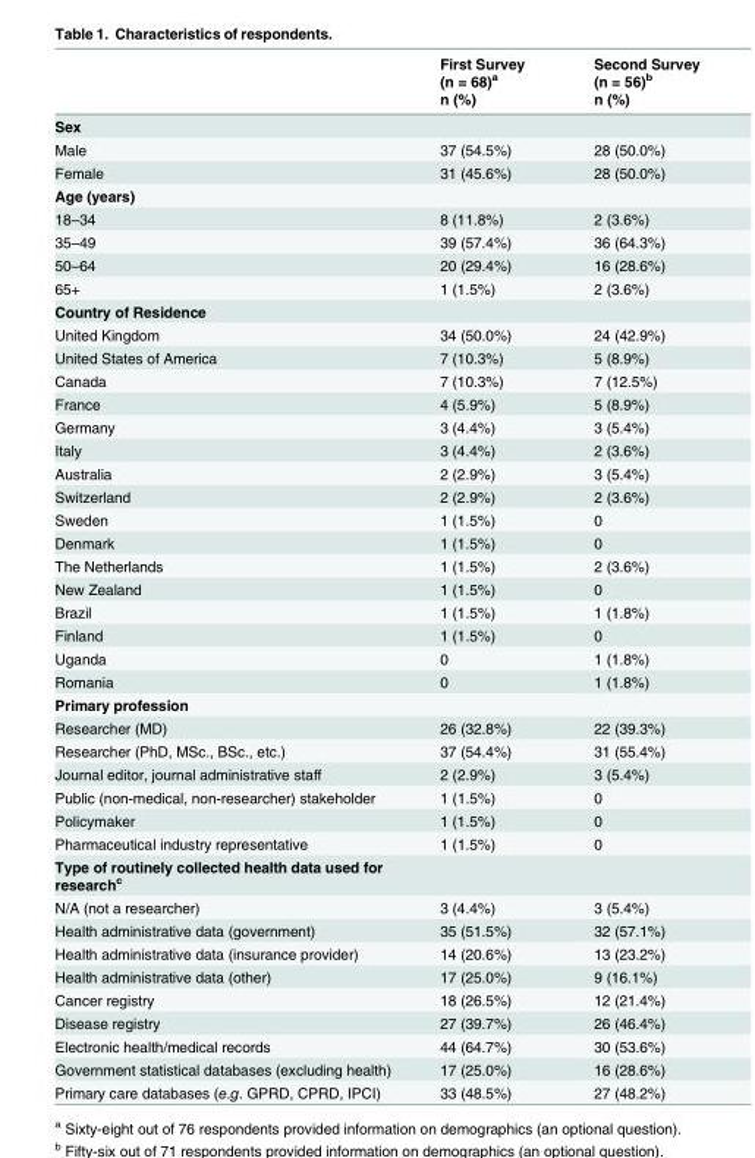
<table><thead><tr><td rowspan="2"></td><td rowspan="2">First Survey (n = 68)<sup>a</sup> n (%)</td><td rowspan="2">Second Survey (n = 56)<sup>b</sup> n (%)</td></tr><tr></tr></thead><tbody><tr><td colspan="3">Sex</td></tr><tr><td>Male</td><td>37 (54.5%)</td><td>28 (50.0%)</td></tr><tr><td>Female</td><td>31 (45.6%)</td><td>28 (50.0%)</td></tr><tr><td colspan="3">Age (years)</td></tr><tr><td>18–34</td><td>8 (11.8%)</td><td>2 (3.6%)</td></tr><tr><td>35–49</td><td>39 (57.4%)</td><td>36 (64.3%)</td></tr><tr><td>50–64</td><td>20 (29.4%)</td><td>16 (28.6%)</td></tr><tr><td>65+</td><td>1 (1.5%)</td><td>2 (3.6%)</td></tr><tr><td colspan="3">Country of Residence</td></tr><tr><td>United Kingdom</td><td>34 (50.0%)</td><td>24 (42.9%)</td></tr><tr><td>United States of America</td><td>7 (10.3%)</td><td>5 (8.9%)</td></tr><tr><td>Canada</td><td>7 (10.3%)</td><td>7 (12.5%)</td></tr><tr><td>France</td><td>4 (5.9%)</td><td>5 (8.9%)</td></tr><tr><td>Germany</td><td>3 (4.4%)</td><td>3 (5.4%)</td></tr><tr><td>Italy</td><td>3 (4.4%)</td><td>2 (3.6%)</td></tr><tr><td>Australia</td><td>2 (2.9%)</td><td>3 (5.4%)</td></tr><tr><td>Switzerland</td><td>2 (2.9%)</td><td>2 (3.6%)</td></tr><tr><td>Sweden</td><td>1 (1.5%)</td><td>0</td></tr><tr><td>Denmark</td><td>1 (1.5%)</td><td>0</td></tr><tr><td>The Netherlands</td><td>1 (1.5%)</td><td>2 (3.6%)</td></tr><tr><td>New Zealand</td><td>1 (1.5%)</td><td>0</td></tr><tr><td>Brazil</td><td>1 (1.5%)</td><td>1 (1.8%)</td></tr><tr><td>Finland</td><td>1 (1.5%)</td><td>0</td></tr><tr><td>Uganda</td><td>0</td><td>1 (1.8%)</td></tr><tr><td>Romania</td><td>0</td><td>1 (1.8%)</td></tr><tr><td colspan="3">Primary profession</td></tr><tr><td>Researcher (MD)</td><td>26 (32.8%)</td><td>22 (39.3%)</td></tr><tr><td>Researcher (PhD, MSc., BSc., etc.)</td><td>37 (54.4%)</td><td>31 (55.4%)</td></tr><tr><td>Journal editor, journal administrative staff</td><td>2 (2.9%)</td><td>3 (5.4%)</td></tr><tr><td>Public (non-medical, non-researcher) stakeholder</td><td>1 (1.5%)</td><td>0</td></tr><tr><td>Policymaker</td><td>1 (1.5%)</td><td>0</td></tr><tr><td>Pharmaceutical industry representative</td><td>1 (1.5%)</td><td>0</td></tr><tr><td colspan="3">Type of routinely collected health data used for research<sup>c</sup></td></tr><tr><td>N/A (not a researcher)</td><td>3 (4.4%)</td><td>3 (5.4%)</td></tr><tr><td>Health administrative data (government)</td><td>35 (51.5%)</td><td>32 (57.1%)</td></tr><tr><td>Health administrative data (insurance provider)</td><td>14 (20.6%)</td><td>13 (23.2%)</td></tr><tr><td>Health administrative data (other)</td><td>17 (25.0%)</td><td>9 (16.1%)</td></tr><tr><td>Cancer registry</td><td>18 (26.5%)</td><td>12 (21.4%)</td></tr><tr><td>Disease registry</td><td>27 (39.7%)</td><td>26 (46.4%)</td></tr><tr><td>Electronic health/medical records</td><td>44 (64.7%)</td><td>30 (53.6%)</td></tr><tr><td>Government statistical databases (excluding health)</td><td>17 (25.0%)</td><td>16 (28.6%)</td></tr><tr><td>Primary care databases (e.g. GPRD, CPRD, IPCI)</td><td>33 (48.5%)</td><td>27 (48.2%)</td></tr></tbody></table>